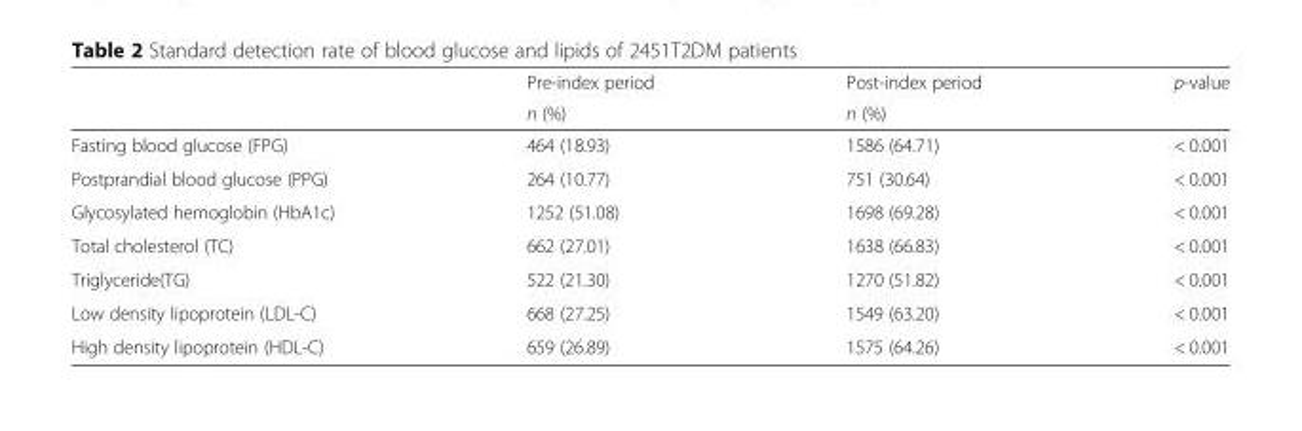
<table><thead><tr><td rowspan="2"></td><td rowspan="2">Pre-index period n (%)</td><td rowspan="2">Post-index period n (%)</td><td rowspan="2">p-value</td></tr><tr></tr></thead><tbody><tr><td>Fasting blood glucose (FPG)</td><td>464 (18.93)</td><td>1586 (64.71)</td><td>&lt; 0.001</td></tr><tr><td>Postprandial blood glucose (PPG)</td><td>264 (10.77)</td><td>751 (30.64)</td><td>&lt; 0.001</td></tr><tr><td>Glycosylated hemoglobin (HbA1c)</td><td>1252 (51.08)</td><td>1698 (69.28)</td><td>&lt; 0.001</td></tr><tr><td>Total cholesterol (TC)</td><td>662 (27.01)</td><td>1638 (66.83)</td><td>&lt; 0.001</td></tr><tr><td>Triglyceride(TG)</td><td>522 (21.30)</td><td>1270 (51.82)</td><td>&lt; 0.001</td></tr><tr><td>Low density lipoprotein (LDL-C)</td><td>668 (27.25)</td><td>1549 (63.20)</td><td>&lt; 0.001</td></tr><tr><td>High density lipoprotein (HDL-C)</td><td>659 (26.89)</td><td>1575 (64.26)</td><td>&lt; 0.001</td></tr></tbody></table>